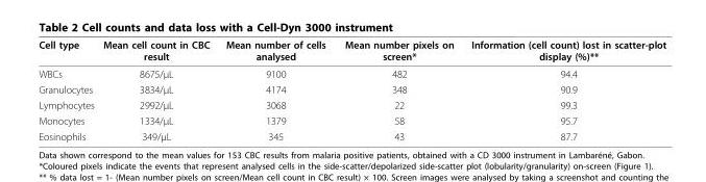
<table><thead><tr><td>Cell type</td><td>Mean cell count in CBC result</td><td>Mean number of cells analysed</td><td>Mean number pixels on screen*</td><td>Information (cell count) lost in scatter-plot display (%)**</td></tr></thead><tbody><tr><td>WBCs</td><td>8675/μL</td><td>9100</td><td>482</td><td>94.4</td></tr><tr><td>Granulocytes</td><td>3834/μL</td><td>4174</td><td>348</td><td>90.9</td></tr><tr><td>Lymphocytes</td><td>2992/μL</td><td>3068</td><td>22</td><td>99.3</td></tr><tr><td>Monocytes</td><td>1334/μL</td><td>1379</td><td>58</td><td>95.7</td></tr><tr><td>Eosinophils</td><td>349/μL</td><td>345</td><td>43</td><td>87.7</td></tr></tbody></table>